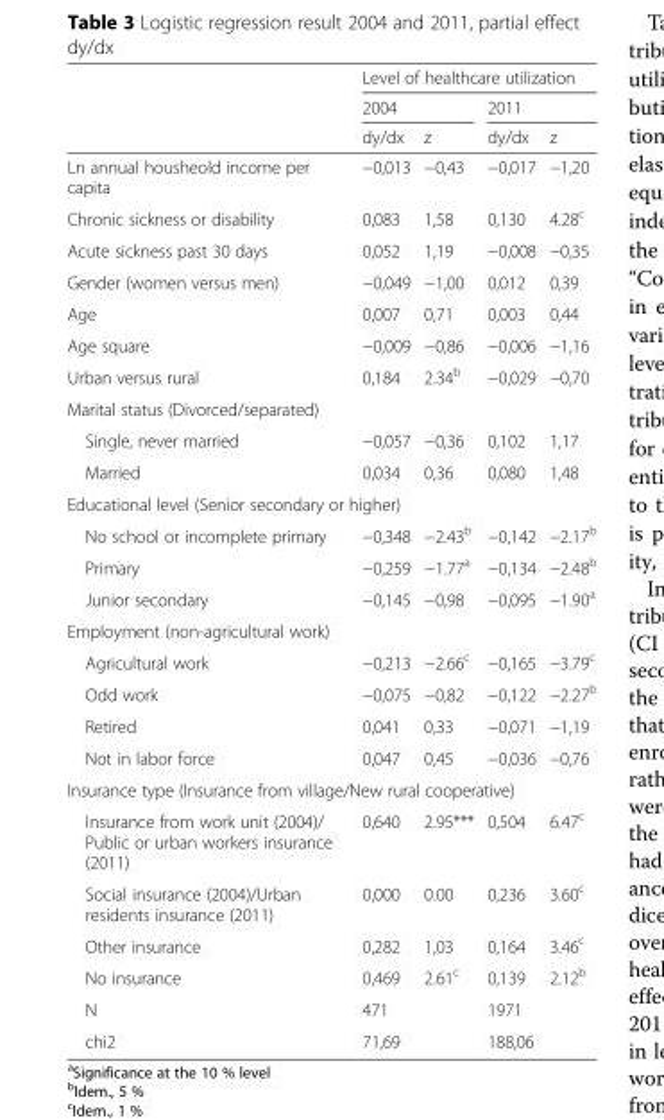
<table><thead><tr><td rowspan="3"></td><td colspan="4">Level of healthcare utilization</td></tr><tr><td colspan="2">2004</td><td colspan="2">2011</td></tr><tr><td>dy/dx</td><td>z</td><td>dy/dx</td><td>z</td></tr></thead><tbody><tr><td>Ln annual housheold income per capita</td><td>−0,013</td><td>−0,43</td><td>−0,017</td><td>−1,20</td></tr><tr><td>Chronic sickness or disability</td><td>0,083</td><td>1,58</td><td>0,130</td><td>4.28<sup>c</sup></td></tr><tr><td>Acute sickness past 30 days</td><td>0,052</td><td>1,19</td><td>−0,008</td><td>−0,35</td></tr><tr><td>Gender (women versus men)</td><td>−0,049</td><td>−1,00</td><td>0,012</td><td>0,39</td></tr><tr><td>Age</td><td>0,007</td><td>0,71</td><td>0,003</td><td>0,44</td></tr><tr><td>Age square</td><td>−0,009</td><td>−0,86</td><td>−0,006</td><td>−1,16</td></tr><tr><td>Urban versus rural</td><td>0,184</td><td>2.34<sup>b</sup></td><td>−0,029</td><td>−0,70</td></tr><tr><td colspan="5">Marital status (Divorced/separated)</td></tr><tr><td>Single, never married</td><td>−0,057</td><td>−0,36</td><td>0,102</td><td>1,17</td></tr><tr><td>Married</td><td>0,034</td><td>0,36</td><td>0,080</td><td>1,48</td></tr><tr><td colspan="5">Educational level (Senior secondary or higher)</td></tr><tr><td>No school or incomplete primary</td><td>−0,348</td><td>−2.43<sup>b</sup></td><td>−0,142</td><td>−2.17<sup>b</sup></td></tr><tr><td>Primary</td><td>−0,259</td><td>−1.77<sup>a</sup></td><td>−0,134</td><td>−2.48<sup>b</sup></td></tr><tr><td>Junior secondary</td><td>−0,145</td><td>−0,98</td><td>−0,095</td><td>−1.90<sup>a</sup></td></tr><tr><td colspan="5">Employment (non-agricultural work)</td></tr><tr><td>Agricultural work</td><td>−0,213</td><td>−2.66<sup>c</sup></td><td>−0,165</td><td>−3.79<sup>c</sup></td></tr><tr><td>Odd work</td><td>−0,075</td><td>−0,82</td><td>−0,122</td><td>−2.27<sup>b</sup></td></tr><tr><td>Retired</td><td>0,041</td><td>0,33</td><td>−0,071</td><td>−1,19</td></tr><tr><td>Not in labor force</td><td>0,047</td><td>0,45</td><td>−0,036</td><td>−0,76</td></tr><tr><td colspan="5">Insurance type (Insurance from village/New rural cooperative)</td></tr><tr><td>Insurance from work unit (2004)/ Public or urban workers insurance (2011)</td><td>0,640</td><td>2.95***</td><td>0,504</td><td>6.47<sup>c</sup></td></tr><tr><td>Social insurance (2004)/Urban residents insurance (2011)</td><td>0,000</td><td>0.00</td><td>0,236</td><td>3.60<sup>c</sup></td></tr><tr><td>Other insurance</td><td>0,282</td><td>1,03</td><td>0,164</td><td>3.46<sup>c</sup></td></tr><tr><td>No insurance</td><td>0,469</td><td>2.61<sup>c</sup></td><td>0,139</td><td>2.12<sup>b</sup></td></tr><tr><td>N</td><td colspan="2">471</td><td colspan="2">1971</td></tr><tr><td>chi2</td><td colspan="2">71,69</td><td colspan="2">188,06</td></tr></tbody></table>